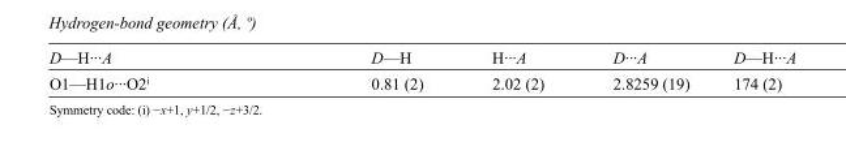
<table><tbody><tr><td>D—H···A</td><td>D—H</td><td>H···A</td><td>D···A</td><td>D—H···A</td></tr><tr><td>O1—H1o···O2<sup>i</sup></td><td>0.81 (2)</td><td>2.02 (2)</td><td>2.8259 (19)</td><td>174 (2)</td></tr></tbody></table>